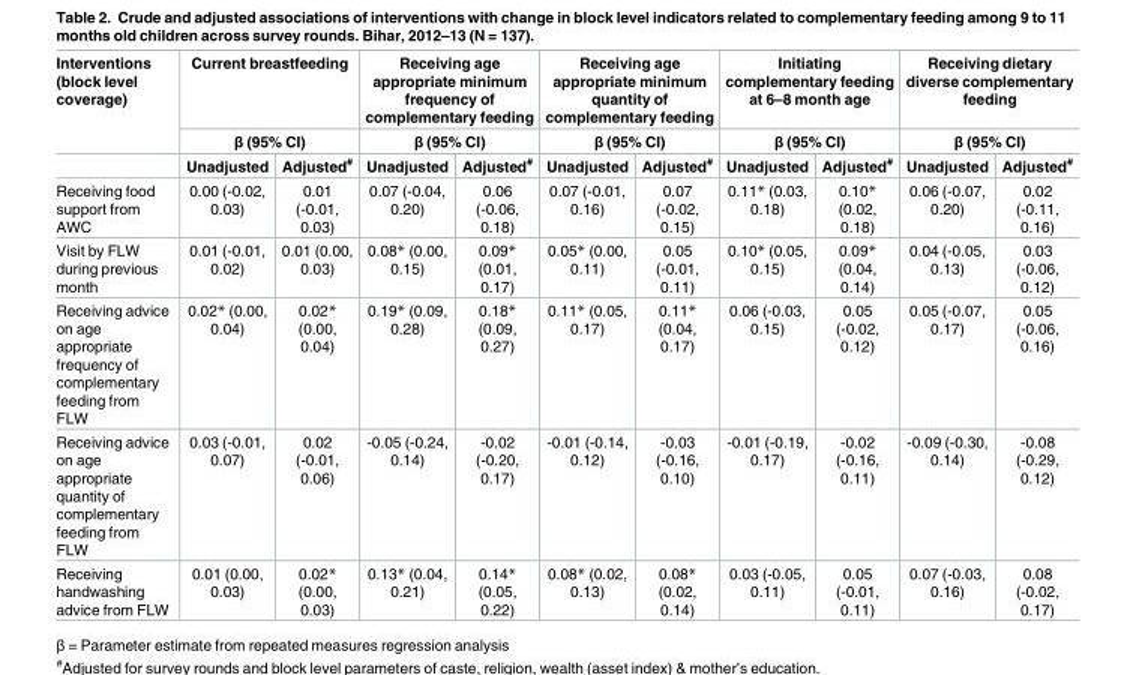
<table><thead><tr><td rowspan="3">Interventions (block level coverage)</td><td rowspan="2" colspan="2">Current breastfeeding β (95% CI)</td><td rowspan="2" colspan="2">Receiving age appropriate minimum frequency of complementary feeding β (95% CI)</td><td rowspan="2" colspan="2">Receiving age appropriate minimum quantity of complementary feeding β (95% CI)</td><td rowspan="2" colspan="2">Initiating complementary feeding at 6–8 month age β (95% CI)</td><td rowspan="2" colspan="2">Receiving dietary diverse complementary feeding β (95% CI)</td></tr><tr></tr><tr><td>Unadjusted</td><td>Adjusted<sup>#</sup></td><td>Unadjusted</td><td>Adjusted<sup>#</sup></td><td>Unadjusted</td><td>Adjusted<sup>#</sup></td><td>Unadjusted</td><td>Adjusted<sup>#</sup></td><td>Unadjusted</td><td>Adjusted<sup>#</sup></td></tr></thead><tbody><tr><td>Receiving food support from AWC</td><td>0.00 (-0.02, 0.03)</td><td>0.01 (-0.01, 0.03)</td><td>0.07 (-0.04, 0.20)</td><td>0.06 (-0.06, 0.18)</td><td>0.07 (-0.01, 0.16)</td><td>0.07 (-0.02, 0.15)</td><td>0.11* (0.03, 0.18)</td><td>0.10* (0.02, 0.18)</td><td>0.06 (-0.07, 0.20)</td><td>0.02 (-0.11, 0.16)</td></tr><tr><td>Visit by FLW during previous month</td><td>0.01 (-0.01, 0.02)</td><td>0.01 (0.00, 0.03)</td><td>0.08* (0.00, 0.15)</td><td>0.09* (0.01, 0.17)</td><td>0.05* (0.00, 0.11)</td><td>0.05 (-0.01, 0.11)</td><td>0.10* (0.05, 0.15)</td><td>0.09* (0.04, 0.14)</td><td>0.04 (-0.05, 0.13)</td><td>0.03 (-0.06, 0.12)</td></tr><tr><td>Receiving advice on age appropriate frequency of complementary feeding from FLW</td><td>0.02* (0.00, 0.04)</td><td>0.02* (0.00, 0.04)</td><td>0.19* (0.09, 0.28)</td><td>0.18* (0.09, 0.27)</td><td>0.11* (0.05, 0.17)</td><td>0.11* (0.04, 0.17)</td><td>0.06 (-0.03, 0.15)</td><td>0.05 (-0.02, 0.12)</td><td>0.05 (-0.07, 0.17)</td><td>0.05 (-0.06, 0.16)</td></tr><tr><td>Receiving advice on age appropriate quantity of complementary feeding from FLW</td><td>0.03 (-0.01, 0.07)</td><td>0.02 (-0.01, 0.06)</td><td>-0.05 (-0.24, 0.14)</td><td>-0.02 (-0.20, 0.17)</td><td>-0.01 (-0.14, 0.12)</td><td>-0.03 (-0.16, 0.10)</td><td>-0.01 (-0.19, 0.17)</td><td>-0.02 (-0.16, 0.11)</td><td>-0.09 (-0.30, 0.14)</td><td>-0.08 (-0.29, 0.12)</td></tr><tr><td>Receiving handwashing advice from FLW</td><td>0.01 (0.00, 0.03)</td><td>0.02* (0.00, 0.03)</td><td>0.13* (0.04, 0.21)</td><td>0.14* (0.05, 0.22)</td><td>0.08* (0.02, 0.13)</td><td>0.08* (0.02, 0.14)</td><td>0.03 (-0.05, 0.11)</td><td>0.05 (-0.01, 0.11)</td><td>0.07 (-0.03, 0.16)</td><td>0.08 (-0.02, 0.17)</td></tr></tbody></table>